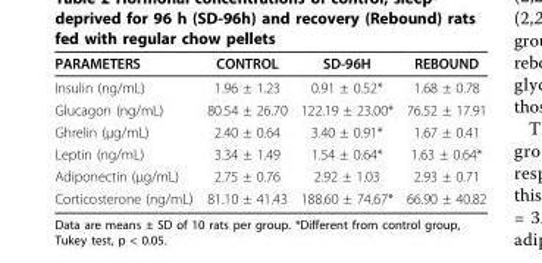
<table><thead><tr><td>PARAMETERS</td><td>CONTROL</td><td>SD-96H</td><td>REBOUND</td></tr></thead><tbody><tr><td>Insulin (ng/mL)</td><td>1.96 ± 1.23</td><td>0.91 ± 0.52*</td><td>1.68 ± 0.78</td></tr><tr><td>Glucagon (ng/mL)</td><td>80.54 ± 26.70</td><td>122.19 ± 23.00*</td><td>76.52 ± 17.91</td></tr><tr><td>Ghrelin (μg/mL)</td><td>2.40 ± 0.64</td><td>3.40 ± 0.91*</td><td>1.67 ± 0.41</td></tr><tr><td>Leptin (ng/mL)</td><td>3.34 ± 1.49</td><td>1.54 ± 0.64*</td><td>1.63 ± 0.64*</td></tr><tr><td>Adiponectin (μg/mL)</td><td>2.75 ± 0.76</td><td>2.92 ± 1.03</td><td>2.93 ± 0.71</td></tr><tr><td>Corticosterone (ng/mL)</td><td>81.10 ± 41.43</td><td>188.60 ± 74.67*</td><td>66.90 ± 40.82</td></tr></tbody></table>